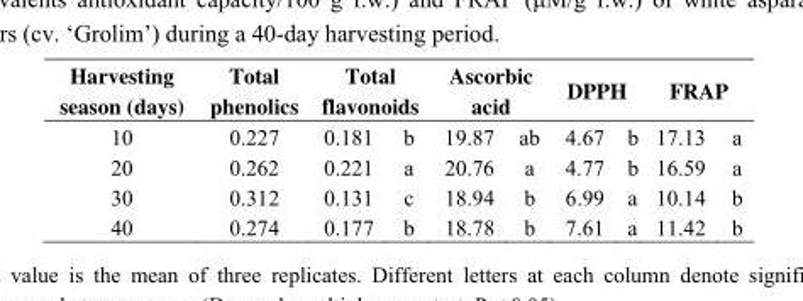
<table><thead><tr><td rowspan="2">Harvesting season (days) 10</td><td rowspan="2">Total phenolics 0.227</td><td colspan="2">Total flavonoids</td><td colspan="2">Ascorbic acid</td><td colspan="2">DPPH</td><td colspan="2">FRAP</td></tr><tr><td>0.181</td><td>b</td><td>19.87</td><td>ab</td><td>4.67</td><td>b</td><td>17.13</td><td>a</td></tr></thead><tbody><tr><td>20</td><td>0.262</td><td>0.221</td><td>a</td><td>20.76</td><td>a</td><td>4.77</td><td>b</td><td>16.59</td><td>a</td></tr><tr><td>30</td><td>0.312</td><td>0.131</td><td>c</td><td>18.94</td><td>b</td><td>6.99</td><td>a</td><td>10.14</td><td>b</td></tr><tr><td>40</td><td>0.274</td><td>0.177</td><td>b</td><td>18.78</td><td>b</td><td>7.61</td><td>a</td><td>11.42</td><td>b</td></tr></tbody></table>